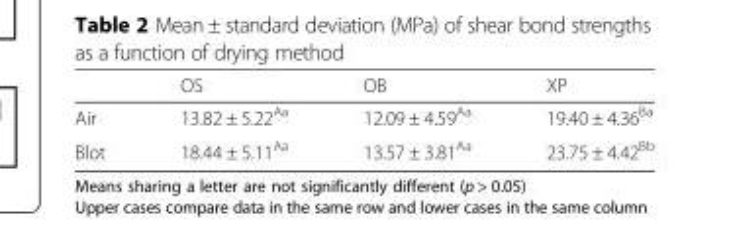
<table><thead><tr><td></td><td>OS</td><td>OB</td><td>XP</td></tr></thead><tbody><tr><td>Air</td><td>13.82 ± 5.22<sup>Aa</sup></td><td>12.09 ± 4.59<sup>Aa</sup></td><td>19.40 ± 4.36<sup>Ba</sup></td></tr><tr><td>Blot</td><td>18.44 ± 5.11<sup>Aa</sup></td><td>13.57 ± 3.81<sup>Aa</sup></td><td>23.75 ± 4.42<sup>Bb</sup></td></tr></tbody></table>